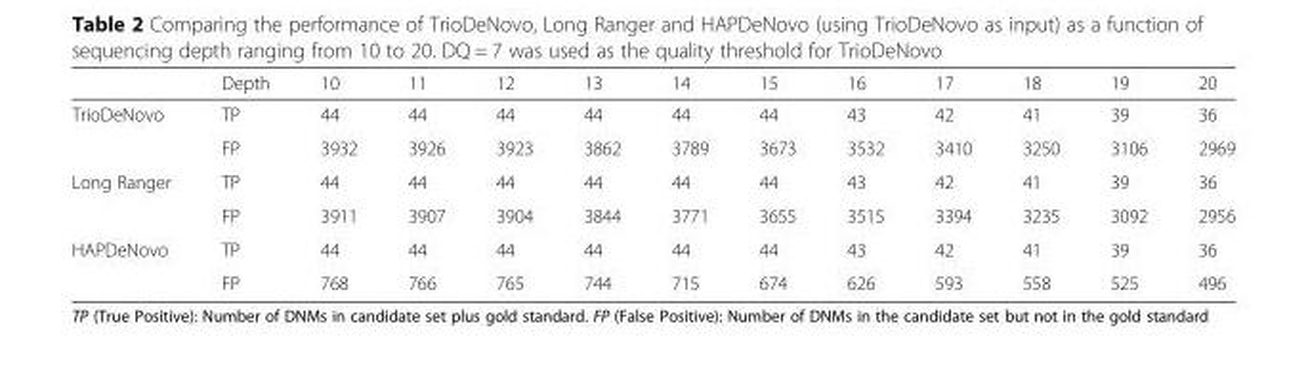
<table><thead><tr><td></td><td>Depth</td><td>10</td><td>11</td><td>12</td><td>13</td><td>14</td><td>15</td><td>16</td><td>17</td><td>18</td><td>19</td><td>20</td></tr></thead><tbody><tr><td rowspan="2">TrioDeNovo</td><td>TP</td><td>44</td><td>44</td><td>44</td><td>44</td><td>44</td><td>44</td><td>43</td><td>42</td><td>41</td><td>39</td><td>36</td></tr><tr><td>FP</td><td>3932</td><td>3926</td><td>3923</td><td>3862</td><td>3789</td><td>3673</td><td>3532</td><td>3410</td><td>3250</td><td>3106</td><td>2969</td></tr><tr><td rowspan="2">Long Ranger</td><td>TP</td><td>44</td><td>44</td><td>44</td><td>44</td><td>44</td><td>44</td><td>43</td><td>42</td><td>41</td><td>39</td><td>36</td></tr><tr><td>FP</td><td>3911</td><td>3907</td><td>3904</td><td>3844</td><td>3771</td><td>3655</td><td>3515</td><td>3394</td><td>3235</td><td>3092</td><td>2956</td></tr><tr><td rowspan="2">HAPDeNovo</td><td>TP</td><td>44</td><td>44</td><td>44</td><td>44</td><td>44</td><td>44</td><td>43</td><td>42</td><td>41</td><td>39</td><td>36</td></tr><tr><td>FP</td><td>768</td><td>766</td><td>765</td><td>744</td><td>715</td><td>674</td><td>626</td><td>593</td><td>558</td><td>525</td><td>496</td></tr></tbody></table>